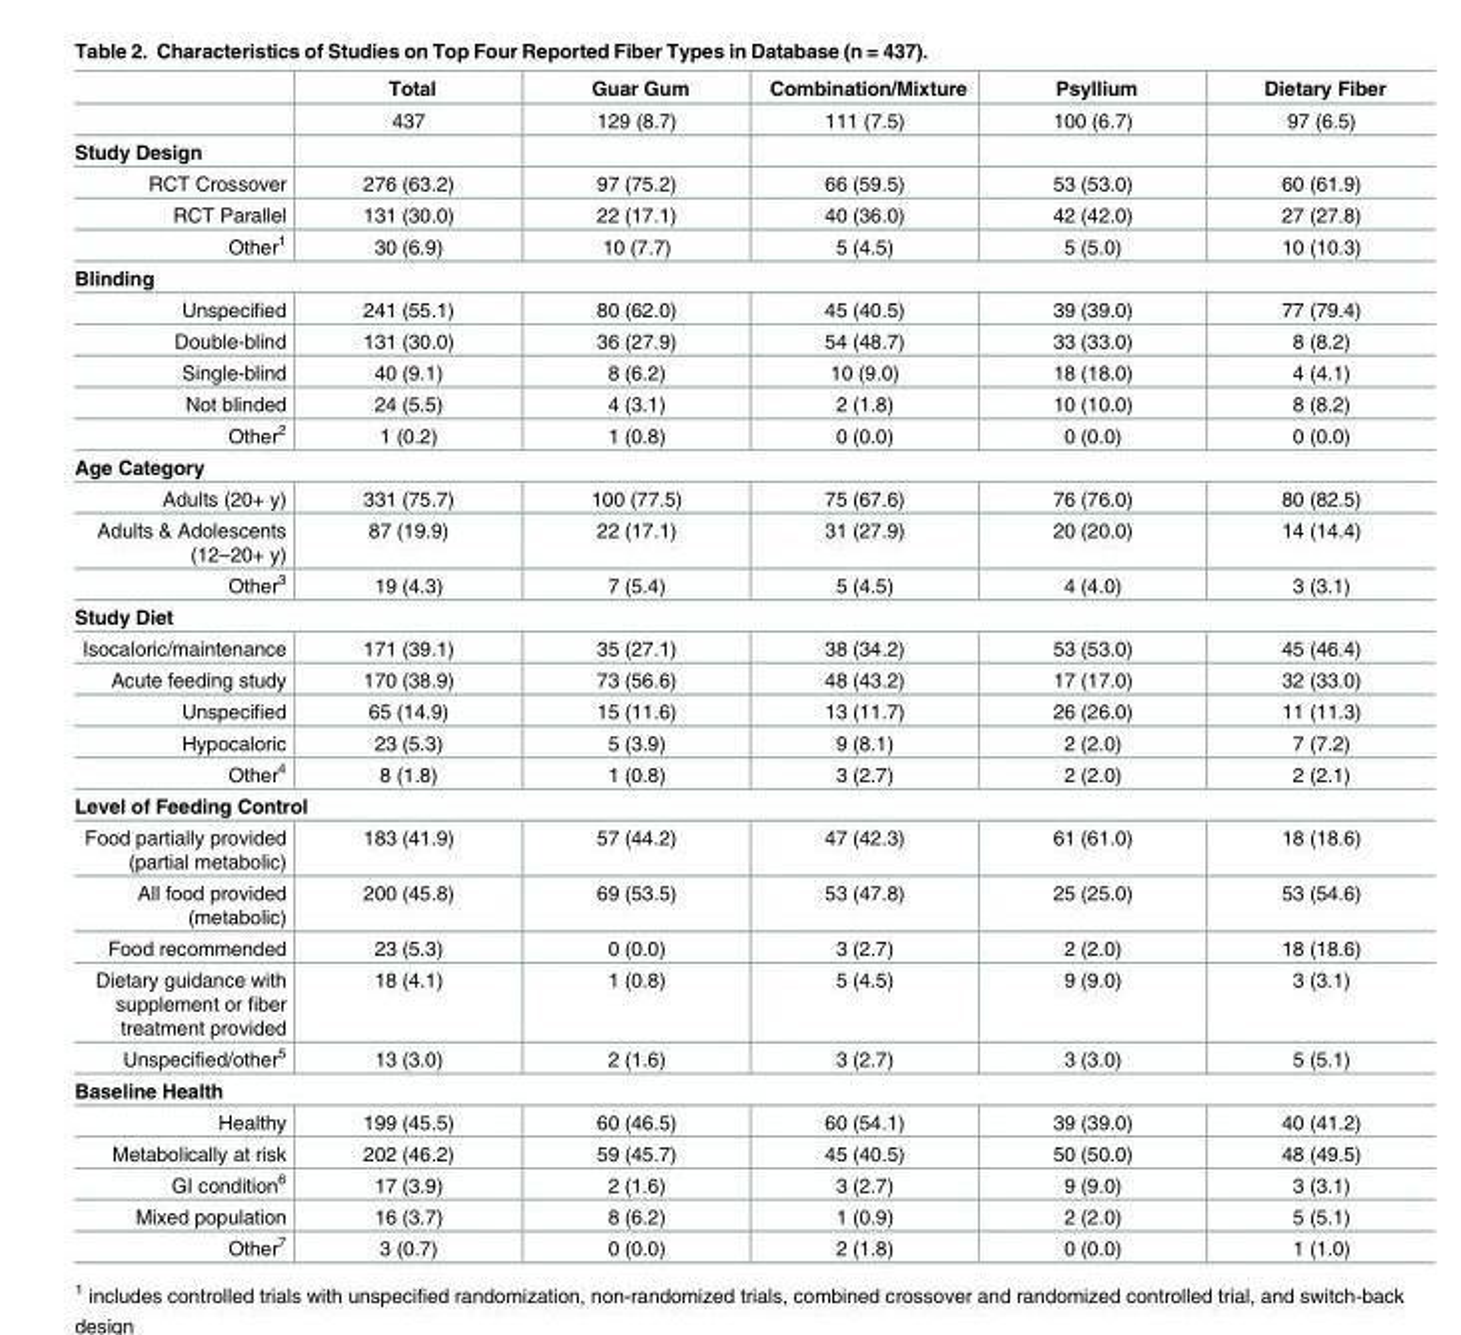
<table><thead><tr><td></td><td>Total</td><td>Guar Gum</td><td>Combination/Mixture</td><td>Psyllium</td><td>Dietary Fiber</td></tr></thead><tbody><tr><td></td><td>437</td><td>129 (8.7)</td><td>111 (7.5)</td><td>100 (6.7)</td><td>97 (6.5)</td></tr><tr><td colspan="6">Study Design</td></tr><tr><td>RCT Crossover</td><td>276 (63.2)</td><td>97 (75.2)</td><td>66 (59.5)</td><td>53 (53.0)</td><td>60 (61.9)</td></tr><tr><td>RCT Parallel</td><td>131 (30.0)</td><td>22 (17.1)</td><td>40 (36.0)</td><td>42 (42.0)</td><td>27 (27.8)</td></tr><tr><td>Other<sup>1</sup></td><td>30 (6.9)</td><td>10 (7.7)</td><td>5 (4.5)</td><td>5 (5.0)</td><td>10 (10.3)</td></tr><tr><td colspan="6">Blinding</td></tr><tr><td>Unspecified</td><td>241 (55.1)</td><td>80 (62.0)</td><td>45 (40.5)</td><td>39 (39.0)</td><td>77 (79.4)</td></tr><tr><td>Double-blind</td><td>131 (30.0)</td><td>36 (27.9)</td><td>54 (48.7)</td><td>33 (33.0)</td><td>8 (8.2)</td></tr><tr><td>Single-blind</td><td>40 (9.1)</td><td>8 (6.2)</td><td>10 (9.0)</td><td>18 (18.0)</td><td>4 (4.1)</td></tr><tr><td>Not blinded</td><td>24 (5.5)</td><td>4 (3.1)</td><td>2 (1.8)</td><td>10 (10.0)</td><td>8 (8.2)</td></tr><tr><td>Other<sup>2</sup></td><td>1 (0.2)</td><td>1 (0.8)</td><td>0 (0.0)</td><td>0 (0.0)</td><td>0 (0.0)</td></tr><tr><td colspan="6">Age Category</td></tr><tr><td>Adults (20+ y)</td><td>331 (75.7)</td><td>100 (77.5)</td><td>75 (67.6)</td><td>76 (76.0)</td><td>80 (82.5)</td></tr><tr><td>Adults &amp; Adolescents (12–20+ y)</td><td>87 (19.9)</td><td>22 (17.1)</td><td>31 (27.9)</td><td>20 (20.0)</td><td>14 (14.4)</td></tr><tr><td>Other<sup>3</sup></td><td>19 (4.3)</td><td>7 (5.4)</td><td>5 (4.5)</td><td>4 (4.0)</td><td>3 (3.1)</td></tr><tr><td colspan="6">Study Diet</td></tr><tr><td>Isocaloric/maintenance</td><td>171 (39.1)</td><td>35 (27.1)</td><td>38 (34.2)</td><td>53 (53.0)</td><td>45 (46.4)</td></tr><tr><td>Acute feeding study</td><td>170 (38.9)</td><td>73 (56.6)</td><td>48 (43.2)</td><td>17 (17.0)</td><td>32 (33.0)</td></tr><tr><td>Unspecified</td><td>65 (14.9)</td><td>15 (11.6)</td><td>13 (11.7)</td><td>26 (26.0)</td><td>11 (11.3)</td></tr><tr><td>Hypocaloric</td><td>23 (5.3)</td><td>5 (3.9)</td><td>9 (8.1)</td><td>2 (2.0)</td><td>7 (7.2)</td></tr><tr><td>Other<sup>4</sup></td><td>8 (1.8)</td><td>1 (0.8)</td><td>3 (2.7)</td><td>2 (2.0)</td><td>2 (2.1)</td></tr><tr><td colspan="6">Level of Feeding Control</td></tr><tr><td>Food partially provided (partial metabolic)</td><td>183 (41.9)</td><td>57 (44.2)</td><td>47 (42.3)</td><td>61 (61.0)</td><td>18 (18.6)</td></tr><tr><td>All food provided (metabolic)</td><td>200 (45.8)</td><td>69 (53.5)</td><td>53 (47.8)</td><td>25 (25.0)</td><td>53 (54.6)</td></tr><tr><td>Food recommended</td><td>23 (5.3)</td><td>0 (0.0)</td><td>3 (2.7)</td><td>2 (2.0)</td><td>18 (18.6)</td></tr><tr><td>Dietary guidance with supplement or fiber treatment provided</td><td>18 (4.1)</td><td>1 (0.8)</td><td>5 (4.5)</td><td>9 (9.0)</td><td>3 (3.1)</td></tr><tr><td>Unspecified/other<sup>5</sup></td><td>13 (3.0)</td><td>2 (1.6)</td><td>3 (2.7)</td><td>3 (3.0)</td><td>5 (5.1)</td></tr><tr><td colspan="6">Baseline Health</td></tr><tr><td>Healthy</td><td>199 (45.5)</td><td>60 (46.5)</td><td>60 (54.1)</td><td>39 (39.0)</td><td>40 (41.2)</td></tr><tr><td>Metabolically at risk</td><td>202 (46.2)</td><td>59 (45.7)</td><td>45 (40.5)</td><td>50 (50.0)</td><td>48 (49.5)</td></tr><tr><td>GI condition<sup>6</sup></td><td>17 (3.9)</td><td>2 (1.6)</td><td>3 (2.7)</td><td>9 (9.0)</td><td>3 (3.1)</td></tr><tr><td>Mixed population</td><td>16 (3.7)</td><td>8 (6.2)</td><td>1 (0.9)</td><td>2 (2.0)</td><td>5 (5.1)</td></tr><tr><td>Other<sup>7</sup></td><td>3 (0.7)</td><td>0 (0.0)</td><td>2 (1.8)</td><td>0 (0.0)</td><td>1 (1.0)</td></tr></tbody></table>